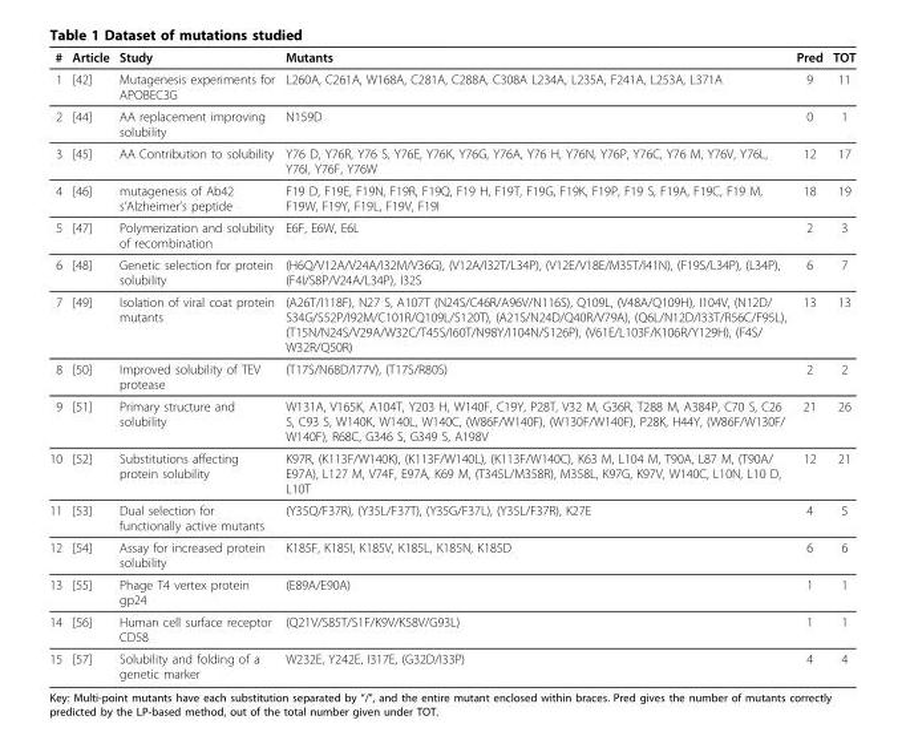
<table><thead><tr><td>#</td><td>Article</td><td>Study</td><td>Mutants</td><td>Pred</td><td>TOT</td></tr></thead><tbody><tr><td>1</td><td>[42]</td><td>Mutagenesis experiments for APOBEC3G</td><td>L260A, C261A, W168A, C281A, C288A, C308A L234A, L235A, F241A, L253A, L371A</td><td>9</td><td>11</td></tr><tr><td>2</td><td>[44]</td><td>AA replacement improving solubility</td><td>N159D</td><td>0</td><td>1</td></tr><tr><td>3</td><td>[45]</td><td>AA Contribution to solubility</td><td>Y76 D, Y76R, Y76 S, Y76E, Y76K, Y76G, Y76A, Y76 H, Y76N, Y76P, Y76C, Y76 M, Y76V, Y76L, Y76I, Y76F, Y76W</td><td>12</td><td>17</td></tr><tr><td>4</td><td>[46]</td><td>mutagenesis of Ab42 s’Alzheimer’s peptide</td><td>F19 D, F19E, F19N, F19R, F19Q, F19 H, F19T, F19G, F19K, F19P, F19 S, F19A, F19C, F19 M, F19W, F19Y, F19L, F19V, F19I</td><td>18</td><td>19</td></tr><tr><td>5</td><td>[47]</td><td>Polymerization and solubility of recombination</td><td>E6F, E6W, E6L</td><td>2</td><td>3</td></tr><tr><td>6</td><td>[48]</td><td>Genetic selection for protein solubility</td><td>(H6Q/V12A/V24A/I32M/V36G), (V12A/I32T/L34P), (V12E/V18E/M35T/I41N), (F19S/L34P), (L34P), (F4I/S8P/V24A/L34P), I32S</td><td>6</td><td>7</td></tr><tr><td>7</td><td>[49]</td><td>Isolation of viral coat protein mutants</td><td>(A26T/I118F), N27 S, A107T (N24S/C46R/A96V/N116S), Q109L, (V48A/Q109H), I104V, (N12D/ S34G/S52P/I92M/C101R/Q109L/S120T), (A21S/N24D/Q40R/V79A), (Q6L/N12D/I33T/R56C/F95L), (T15N/N24S/V29A/W32C/T45S/I60T/N98Y/I104N/S126P), (V61E/L103F/K106R/Y129H), (F4S/ W32R/Q50R)</td><td>13</td><td>13</td></tr><tr><td>8</td><td>[50]</td><td>Improved solubility of TEV protease</td><td>(T17S/N68D/I77V), (T17S/R80S)</td><td>2</td><td>2</td></tr><tr><td>9</td><td>[51]</td><td>Primary structure and solubility</td><td>W131A, V165K, A104T, Y203 H, W140F, C19Y, P28T, V32 M, G36R, T288 M, A384P, C70 S, C26 S, C93 S, W140K, W140L, W140C, (W86F/W140F), (W130F/W140F), P28K, H44Y, (W86F/W130F/ W140F), R68C, G346 S, G349 S, A198V</td><td>21</td><td>26</td></tr><tr><td>10</td><td>[52]</td><td>Substitutions affecting protein solubility</td><td>K97R, (K113F/W140K), (K113F/W140L), (K113F/W140C), K63 M, L104 M, T90A, L87 M, (T90A/ E97A), L127 M, V74F, E97A, K69 M, (T345L/M358R), M358L, K97G, K97V, W140C, L10N, L10 D, L10T</td><td>12</td><td>21</td></tr><tr><td>11</td><td>[53]</td><td>Dual selection for functionally active mutants</td><td>(Y35Q/F37R), (Y35L/F37T), (Y35G/F37L), (Y35L/F37R), K27E</td><td>4</td><td>5</td></tr><tr><td>12</td><td>[54]</td><td>Assay for increased protein solubility</td><td>K185F, K185I, K185V, K185L, K185N, K185D</td><td>6</td><td>6</td></tr><tr><td>13</td><td>[55]</td><td>Phage T4 vertex protein gp24</td><td>(E89A/E90A)</td><td>1</td><td>1</td></tr><tr><td>14</td><td>[56]</td><td>Human cell surface receptor CD58</td><td>(Q21V/S85T/S1F/K9V/K58V/G93L)</td><td>1</td><td>1</td></tr><tr><td>15</td><td>[57]</td><td>Solubility and folding of a genetic marker</td><td>W232E, Y242E, I317E, (G32D/I33P)</td><td>4</td><td>4</td></tr></tbody></table>